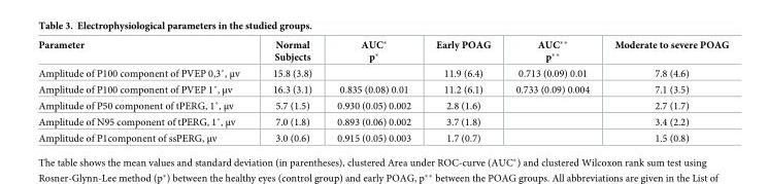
<table><thead><tr><td>Parameter</td><td>Normal Subjects</td><td>AUC* p*</td><td>Early POAG</td><td>AUC** p**</td><td>Moderate to severe POAG</td></tr></thead><tbody><tr><td>Amplitude of P100 component of PVEP 0,3˚, μv</td><td>15.8 (3.8)</td><td></td><td>11.9 (6.4)</td><td>0.713 (0.09) 0.01</td><td>7.8 (4.6)</td></tr><tr><td>Amplitude of P100 component of PVEP 1˚, μv</td><td>16.3 (3.1)</td><td>0.835 (0.08) 0.01</td><td>11.2 (6.1)</td><td>0.733 (0.09) 0.004</td><td>7.1 (3.5)</td></tr><tr><td>Amplitude of P50 component of tPERG, 1˚, μv</td><td>5.7 (1.5)</td><td>0.930 (0.05) 0.002</td><td>2.8 (1.6)</td><td></td><td>2.7 (1.7)</td></tr><tr><td>Amplitude of N95 component of tPERG, 1˚, μv</td><td>7.0 (1.8)</td><td>0.893 (0.06) 0.002</td><td>3.7 (1.8)</td><td></td><td>3.4 (2.2)</td></tr><tr><td>Amplitude of P1component of ssPERG, μv</td><td>3.0 (0.6)</td><td>0.915 (0.05) 0.003</td><td>1.7 (0.7)</td><td></td><td>1.5 (0.8)</td></tr></tbody></table>